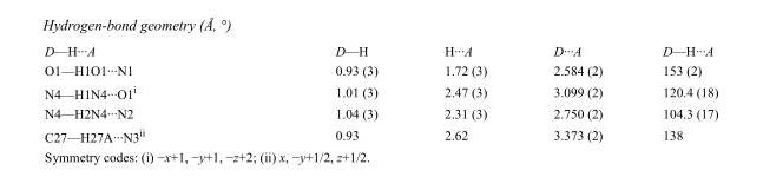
<table><tbody><tr><td>D—H···A</td><td>D—H</td><td>H···A</td><td>D···A</td><td>D—H···A</td></tr><tr><td>O1—H1O1···N1</td><td>0.93 (3)</td><td>1.72 (3)</td><td>2.584 (2)</td><td>153 (2)</td></tr><tr><td>N4—H1N4···O1<sup>i</sup></td><td>1.01 (3)</td><td>2.47 (3)</td><td>3.099 (2)</td><td>120.4 (18)</td></tr><tr><td>N4—H2N4···N2</td><td>1.04 (3)</td><td>2.31 (3)</td><td>2.750 (2)</td><td>104.3 (17)</td></tr><tr><td>C27—H27A···N3<sup>ii</sup></td><td>0.93</td><td>2.62</td><td>3.373 (2)</td><td>138</td></tr></tbody></table>